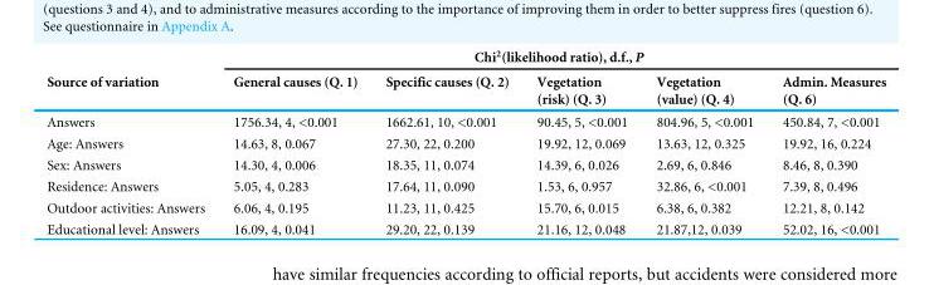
<table><thead><tr><td rowspan="2">Source of variation</td><td colspan="5">Chi<sup>2</sup>(likelihood ratio), d.f., P</td></tr><tr><td>General causes (Q. 1)</td><td>Specific causes (Q. 2)</td><td>Vegetation (risk) (Q. 3)</td><td>Vegetation (value) (Q. 4)</td><td>Admin. Measures (Q. 6)</td></tr></thead><tbody><tr><td>Answers</td><td>1756.34, 4, &lt;0.001</td><td>1662.61, 10, &lt;0.001</td><td>90.45, 5, &lt;0.001</td><td>804.96, 5, &lt;0.001</td><td>450.84, 7, &lt;0.001</td></tr><tr><td>Age: Answers</td><td>14.63, 8, 0.067</td><td>27.30, 22, 0.200</td><td>19.92, 12, 0.069</td><td>13.63, 12, 0.325</td><td>19.92, 16, 0.224</td></tr><tr><td>Sex: Answers</td><td>14.30, 4, 0.006</td><td>18.35, 11, 0.074</td><td>14.39, 6, 0.026</td><td>2.69, 6, 0.846</td><td>8.46, 8, 0.390</td></tr><tr><td>Residence: Answers</td><td>5.05, 4, 0.283</td><td>17.64, 11, 0.090</td><td>1.53, 6, 0.957</td><td>32.86, 6, &lt;0.001</td><td>7.39, 8, 0.496</td></tr><tr><td>Outdoor activities: Answers</td><td>6.06, 4, 0.195</td><td>11.23, 11, 0.425</td><td>15.70, 6, 0.015</td><td>6.38, 6, 0.382</td><td>12.21, 8, 0.142</td></tr><tr><td>Educational level: Answers</td><td>16.09, 4, 0.041</td><td>29.20, 22, 0.139</td><td>21.16, 12, 0.048</td><td>21.87,12, 0.039</td><td>52.02, 16, &lt;0.001</td></tr></tbody></table>